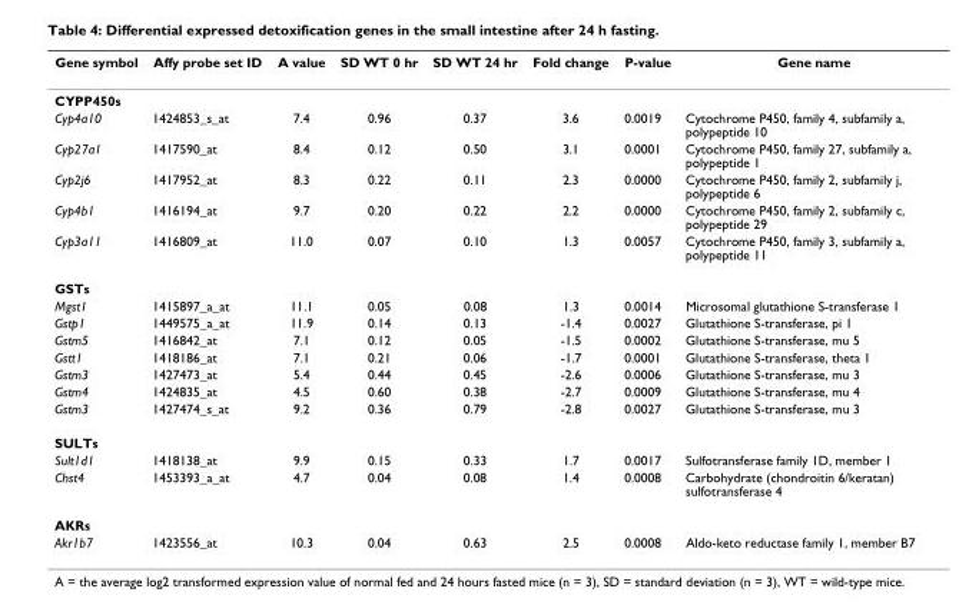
<table><thead><tr><td>Gene symbol</td><td>Affy probe set ID</td><td>A value</td><td>SD WT 0 hr</td><td>SD WT 24 hr</td><td>Fold change</td><td>P-value</td><td>Gene name</td></tr></thead><tbody><tr><td colspan="8">CYPP450s</td></tr><tr><td>Cyp4a10</td><td>1424853_s_at</td><td>7.4</td><td>0.96</td><td>0.37</td><td>3.6</td><td>0.0019</td><td>Cytochrome P450, family 4, subfamily a, polypeptide 10</td></tr><tr><td>Cyp27a1</td><td>1417590_at</td><td>8.4</td><td>0.12</td><td>0.50</td><td>3.1</td><td>0.0001</td><td>Cytochrome P450, family 27, subfamily a, polypeptide 1</td></tr><tr><td>Cyp2j6</td><td>1417952_at</td><td>8.3</td><td>0.22</td><td>0.11</td><td>2.3</td><td>0.0000</td><td>Cytochrome P450, family 2, subfamily j, polypeptide 6</td></tr><tr><td>Cyp4b1</td><td>1416194_at</td><td>9.7</td><td>0.20</td><td>0.22</td><td>2.2</td><td>0.0000</td><td>Cytochrome P450, family 2, subfamily c, polypeptide 29</td></tr><tr><td>Cyp3a11</td><td>1416809_at</td><td>11.0</td><td>0.07</td><td>0.10</td><td>1.3</td><td>0.0057</td><td>Cytochrome P450, family 3, subfamily a, polypeptide 11</td></tr><tr><td colspan="8">GSTs</td></tr><tr><td>Mgst1</td><td>1415897_a_at</td><td>11.1</td><td>0.05</td><td>0.08</td><td>1.3</td><td>0.0014</td><td>Microsomal glutathione S-transferase 1</td></tr><tr><td>Gstp1</td><td>1449575_a_at</td><td>11.9</td><td>0.14</td><td>0.13</td><td>-1.4</td><td>0.0027</td><td>Glutathione S-transferase, pi 1</td></tr><tr><td>Gstm5</td><td>1416842_at</td><td>7.1</td><td>0.12</td><td>0.05</td><td>-1.5</td><td>0.0002</td><td>Glutathione S-transferase, mu 5</td></tr><tr><td>Gstt1</td><td>1418186_at</td><td>7.1</td><td>0.21</td><td>0.06</td><td>-1.7</td><td>0.0001</td><td>Glutathione S-transferase, theta 1</td></tr><tr><td>Gstm3</td><td>1427473_at</td><td>5.4</td><td>0.44</td><td>0.45</td><td>-2.6</td><td>0.0006</td><td>Glutathione S-transferase, mu 3</td></tr><tr><td>Gstm4</td><td>1424835_at</td><td>4.5</td><td>0.60</td><td>0.38</td><td>-2.7</td><td>0.0009</td><td>Glutathione S-transferase, mu 4</td></tr><tr><td>Gstm3</td><td>1427474_s_at</td><td>9.2</td><td>0.36</td><td>0.79</td><td>-2.8</td><td>0.0027</td><td>Glutathione S-transferase, mu 3</td></tr><tr><td colspan="8">SULTs</td></tr><tr><td>Sult1d1</td><td>1418138_at</td><td>9.9</td><td>0.15</td><td>0.33</td><td>1.7</td><td>0.0017</td><td>Sulfotransferase family 1D, member 1</td></tr><tr><td>Chst4</td><td>1453393_a_at</td><td>4.7</td><td>0.04</td><td>0.08</td><td>1.4</td><td>0.0008</td><td>Carbohydrate (chondroitin 6/keratan) sulfotransferase 4</td></tr><tr><td colspan="8">AKRs</td></tr><tr><td>Akr1b7</td><td>1423556_at</td><td>10.3</td><td>0.04</td><td>0.63</td><td>2.5</td><td>0.0008</td><td>Aldo-keto reductase family 1, member B7</td></tr></tbody></table>